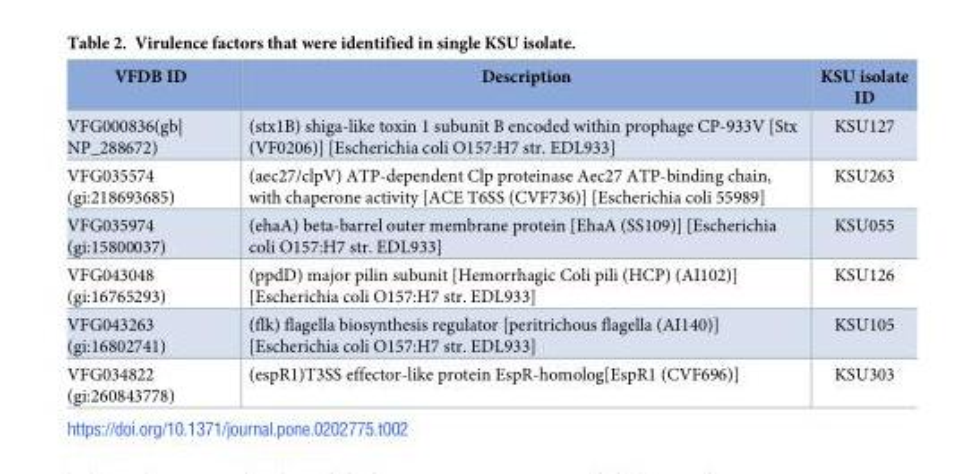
<table><thead><tr><td>VFDB ID</td><td>Description</td><td>KSU isolate ID</td></tr></thead><tbody><tr><td>VFG000836(gb| NP_288672)</td><td>(stx1B) shiga-like toxin 1 subunit B encoded within prophage CP-933V [Stx (VF0206)] [Escherichia coli O157:H7 str. EDL933]</td><td>KSU127</td></tr><tr><td>VFG035574 (gi:218693685)</td><td>(aec27/clpV) ATP-dependent Clp proteinase Aec27 ATP-binding chain, with chaperone activity [ACE T6SS (CVF736)] [Escherichia coli 55989]</td><td>KSU263</td></tr><tr><td>VFG035974 (gi:15800037)</td><td>(ehaA) beta-barrel outer membrane protein [EhaA (SS109)] [Escherichia coli O157:H7 str. EDL933]</td><td>KSU055</td></tr><tr><td>VFG043048 (gi:16765293)</td><td>(ppdD) major pilin subunit [Hemorrhagic Coli pili (HCP) (AI102)] [Escherichia coli O157:H7 str. EDL933]</td><td>KSU126</td></tr><tr><td>VFG043263 (gi:16802741)</td><td>(flk) flagella biosynthesis regulator [peritrichous flagella (AI140)] [Escherichia coli O157:H7 str. EDL933]</td><td>KSU105</td></tr><tr><td>VFG034822 (gi:260843778)</td><td>(espR1)T3SS effector-like protein EspR-homolog[EspR1 (CVF696)]</td><td>KSU303</td></tr></tbody></table>